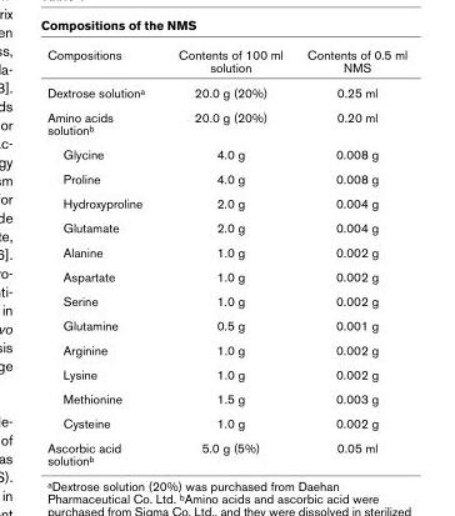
<table><thead><tr><td>Compositions</td><td>Contents of 100 ml solution</td><td>Contents of 0.5 ml NMS</td></tr></thead><tbody><tr><td>Dextrose solutiona</td><td>20.0 g (20%)</td><td>0.25 ml</td></tr><tr><td>Amino acids solutionb</td><td>20.0 g (20%)</td><td>0.20 ml</td></tr><tr><td>Glycine</td><td>4.0 g</td><td>0.008 g</td></tr><tr><td>Proline</td><td>4.0 g</td><td>0.008 g</td></tr><tr><td>Hydroxyproline</td><td>2.0 g</td><td>0.004 g</td></tr><tr><td>Glutamate</td><td>2.0 g</td><td>0.004 g</td></tr><tr><td>Alanine</td><td>1.0 g</td><td>0.002 g</td></tr><tr><td>Aspartate</td><td>1.0 g</td><td>0.002 g</td></tr><tr><td>Serine</td><td>1.0 g</td><td>0.002 g</td></tr><tr><td>Glutamine</td><td>0.5 g</td><td>0.001 g</td></tr><tr><td>Arginine</td><td>1.0 g</td><td>0.002 g</td></tr><tr><td>Lysine</td><td>1.0 g</td><td>0.002 g</td></tr><tr><td>Methionine</td><td>1.5 g</td><td>0.003 g</td></tr><tr><td>Cysteine</td><td>1.0 g</td><td>0.002 g</td></tr><tr><td>Ascorbic acid solutionb</td><td>5.0 g (5%)</td><td>0.05 ml</td></tr></tbody></table>